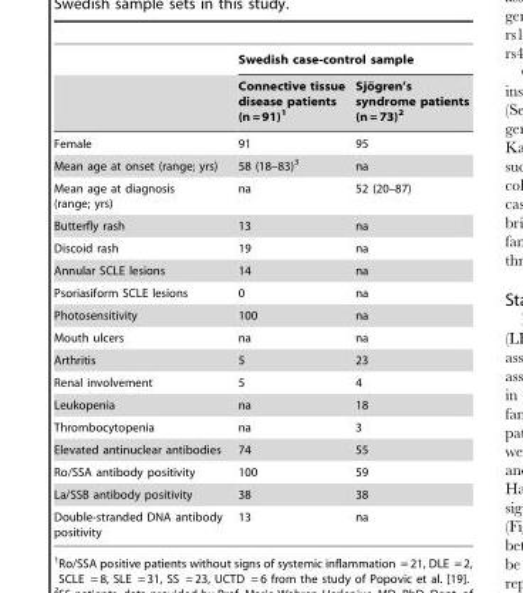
<table><thead><tr><td rowspan="2"></td><td colspan="2">Swedish case-control sample</td></tr><tr><td>Connective tissue disease patients (n = 91)<sup>1</sup></td><td>Sjo¨ gren’s syndrome patients (n = 73)2</td></tr></thead><tbody><tr><td>Female</td><td>91</td><td>95</td></tr><tr><td>Mean age at onset (range; yrs)</td><td>58 (18–83)<sup>3</sup></td><td>na</td></tr><tr><td>Mean age at diagnosis (range; yrs)</td><td>na</td><td>52 (20–87)</td></tr><tr><td>Butterfly rash</td><td>13</td><td>na</td></tr><tr><td>Discoid rash</td><td>19</td><td>na</td></tr><tr><td>Annular SCLE lesions</td><td>14</td><td>na</td></tr><tr><td>Psoriasiform SCLE lesions</td><td>0</td><td>na</td></tr><tr><td>Photosensitivity</td><td>100</td><td>na</td></tr><tr><td>Mouth ulcers</td><td>na</td><td>na</td></tr><tr><td>Arthritis</td><td>5</td><td>23</td></tr><tr><td>Renal involvement</td><td>5</td><td>4</td></tr><tr><td>Leukopenia</td><td>na</td><td>18</td></tr><tr><td>Thrombocytopenia</td><td>na</td><td>3</td></tr><tr><td>Elevated antinuclear antibodies</td><td>74</td><td>55</td></tr><tr><td>Ro/SSA antibody positivity</td><td>100</td><td>59</td></tr><tr><td>La/SSB antibody positivity</td><td>38</td><td>38</td></tr><tr><td>Double-stranded DNA antibody positivity</td><td>13</td><td>na</td></tr></tbody></table>